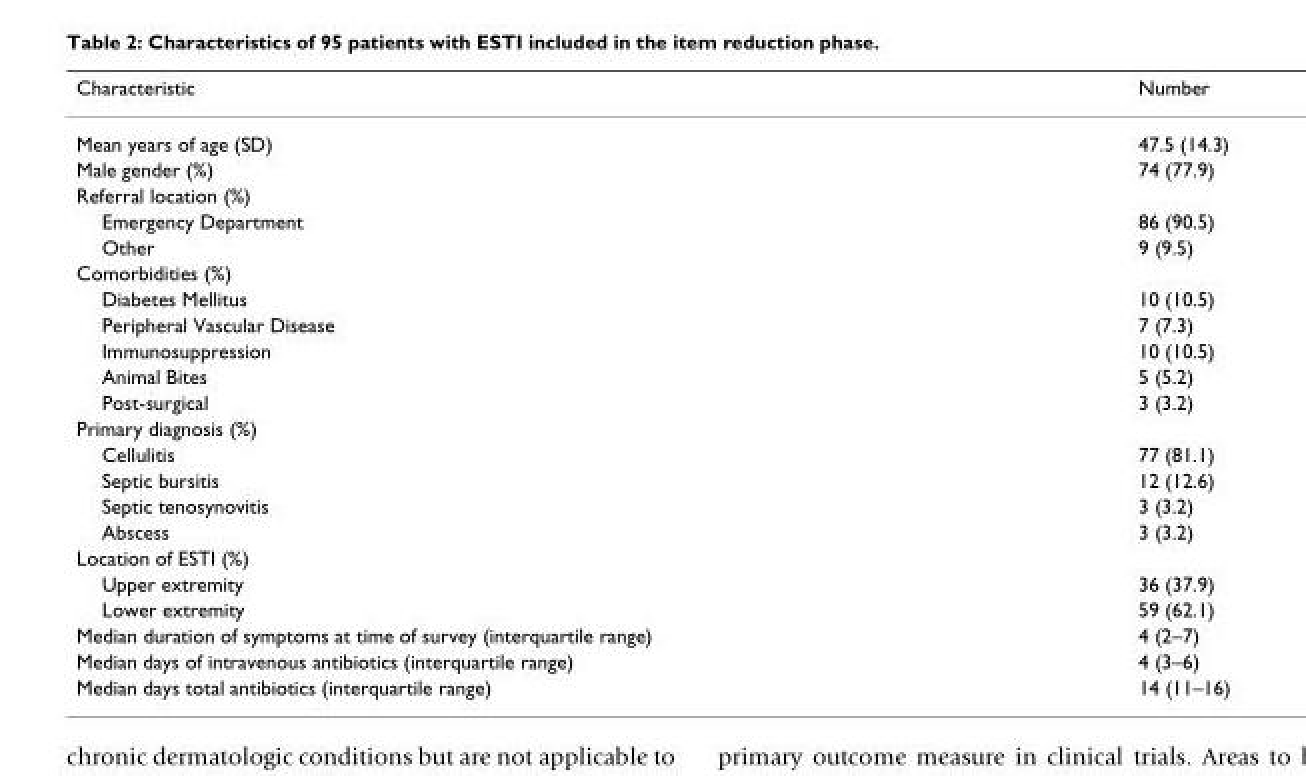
<table><thead><tr><td>Characteristic</td><td>Number</td></tr></thead><tbody><tr><td>Mean years of age (SD)</td><td>47.5 (14.3)</td></tr><tr><td>Male gender (%)</td><td>74 (77.9)</td></tr><tr><td colspan="2">Referral location (%)</td></tr><tr><td>Emergency Department</td><td>86 (90.5)</td></tr><tr><td>Other</td><td>9 (9.5)</td></tr><tr><td colspan="2">Comorbidities (%)</td></tr><tr><td>Diabetes Mellitus</td><td>10 (10.5)</td></tr><tr><td>Peripheral Vascular Disease</td><td>7 (7.3)</td></tr><tr><td>Immunosuppression</td><td>10 (10.5)</td></tr><tr><td>Animal Bites</td><td>5 (5.2)</td></tr><tr><td>Post-surgical</td><td>3 (3.2)</td></tr><tr><td colspan="2">Primary diagnosis (%)</td></tr><tr><td>Cellulitis</td><td>77 (81.1)</td></tr><tr><td>Septic bursitis</td><td>12 (12.6)</td></tr><tr><td>Septic tenosynovitis</td><td>3 (3.2)</td></tr><tr><td>Abscess</td><td>3 (3.2)</td></tr><tr><td colspan="2">Location of ESTI (%)</td></tr><tr><td>Upper extremity</td><td>36 (37.9)</td></tr><tr><td>Lower extremity</td><td>59 (62.1)</td></tr><tr><td>Median duration of symptoms at time of survey (interquartile range)</td><td>4 (2–7)</td></tr><tr><td>Median days of intravenous antibiotics (interquartile range)</td><td>4 (3–6)</td></tr><tr><td>Median days total antibiotics (interquartile range)</td><td>14 (11–16)</td></tr></tbody></table>